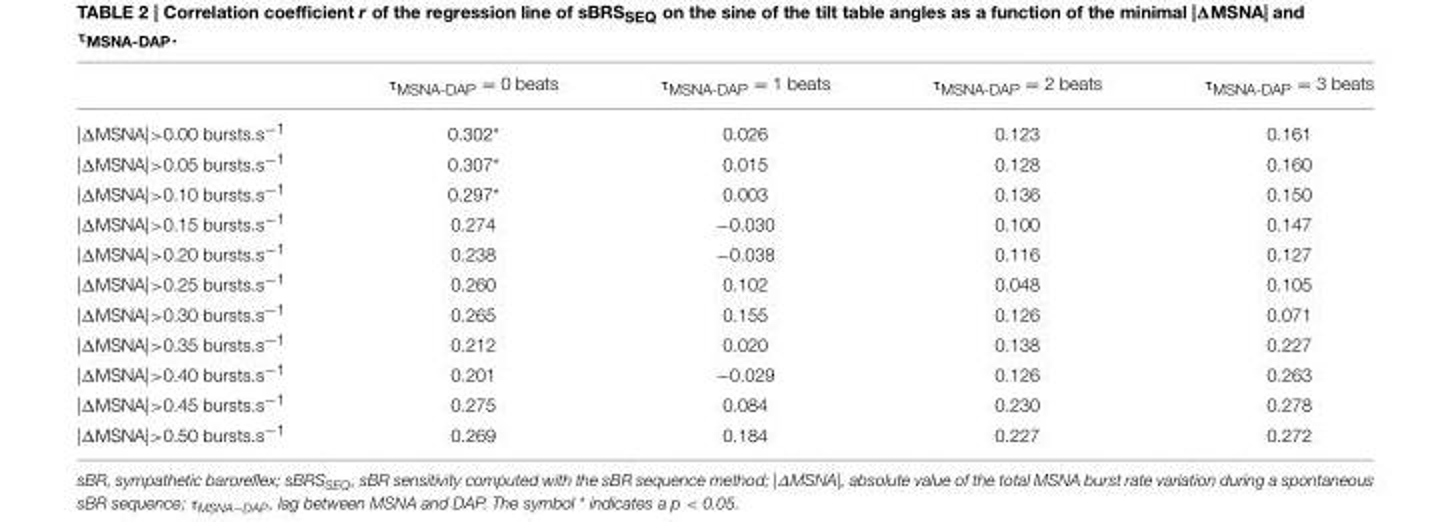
<table><thead><tr><td></td><td>τ<sub>MSNA-DAP</sub> = 0 beats</td><td>τ<sub>MSNA-DAP</sub> = 1 beats</td><td>τ<sub>MSNA-DAP</sub> = 2 beats</td><td>τ<sub>MSNA-DAP</sub> = 3 beats</td></tr></thead><tbody><tr><td>|ΔMSNA|&gt;0.00 bursts.s<sup>−1</sup></td><td>0.302*</td><td>0.026</td><td>0.123</td><td>0.161</td></tr><tr><td>|ΔMSNA|&gt;0.05 bursts.s<sup>−1</sup></td><td>0.307*</td><td>0.015</td><td>0.128</td><td>0.160</td></tr><tr><td>|ΔMSNA|&gt;0.10 bursts.s<sup>−1</sup></td><td>0.297*</td><td>0.003</td><td>0.136</td><td>0.150</td></tr><tr><td>|ΔMSNA|&gt;0.15 bursts.s<sup>−1</sup></td><td>0.274</td><td>−0.030</td><td>0.100</td><td>0.147</td></tr><tr><td>|ΔMSNA|&gt;0.20 bursts.s<sup>−1</sup></td><td>0.238</td><td>−0.038</td><td>0.116</td><td>0.127</td></tr><tr><td>|ΔMSNA|&gt;0.25 bursts.s<sup>−1</sup></td><td>0.260</td><td>0.102</td><td>0.048</td><td>0.105</td></tr><tr><td>|ΔMSNA|&gt;0.30 bursts.s<sup>−1</sup></td><td>0.265</td><td>0.155</td><td>0.126</td><td>0.071</td></tr><tr><td>|ΔMSNA|&gt;0.35 bursts.s<sup>−1</sup></td><td>0.212</td><td>0.020</td><td>0.138</td><td>0.227</td></tr><tr><td>|ΔMSNA|&gt;0.40 bursts.s<sup>−1</sup></td><td>0.201</td><td>−0.029</td><td>0.126</td><td>0.263</td></tr><tr><td>|ΔMSNA|&gt;0.45 bursts.s<sup>−1</sup></td><td>0.275</td><td>0.084</td><td>0.230</td><td>0.278</td></tr><tr><td>|ΔMSNA|&gt;0.50 bursts.s<sup>−1</sup></td><td>0.269</td><td>0.184</td><td>0.227</td><td>0.272</td></tr></tbody></table>